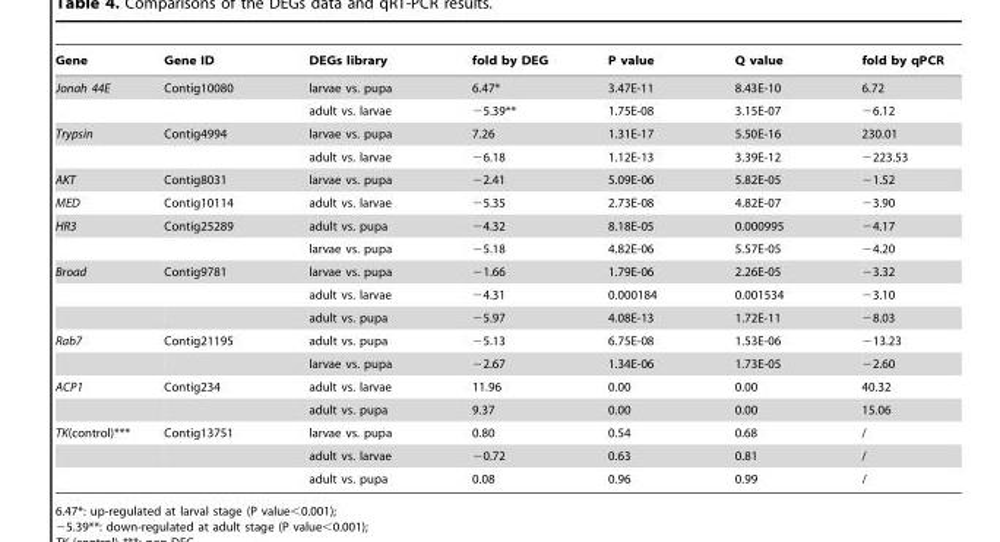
<table><thead><tr><td>Gene</td><td>Gene ID</td><td>DEGs library</td><td>fold by DEG</td><td>P value</td><td>Q value</td><td>fold by qPCR</td></tr></thead><tbody><tr><td rowspan="2">Jonah 44E</td><td>Contig10080</td><td>larvae vs. pupa</td><td>6.47*</td><td>3.47E-11</td><td>8.43E-10</td><td>6.72</td></tr><tr><td></td><td>adult vs. larvae</td><td>−5.39**</td><td>1.75E-08</td><td>3.15E-07</td><td>−6.12</td></tr><tr><td rowspan="2">Trypsin</td><td>Contig4994</td><td>larvae vs. pupa</td><td>7.26</td><td>1.31E-17</td><td>5.50E-16</td><td>230.01</td></tr><tr><td></td><td>adult vs. larvae</td><td>−6.18</td><td>1.12E-13</td><td>3.39E-12</td><td>−223.53</td></tr><tr><td>AKT</td><td>Contig8031</td><td>larvae vs. pupa</td><td>−2.41</td><td>5.09E-06</td><td>5.82E-05</td><td>−1.52</td></tr><tr><td>MED</td><td>Contig10114</td><td>adult vs. larvae</td><td>−5.35</td><td>2.73E-08</td><td>4.82E-07</td><td>−3.90</td></tr><tr><td rowspan="2">HR3</td><td>Contig25289</td><td>adult vs. pupa</td><td>−4.32</td><td>8.18E-05</td><td>0.000995</td><td>−4.17</td></tr><tr><td></td><td>larvae vs. pupa</td><td>−5.18</td><td>4.82E-06</td><td>5.57E-05</td><td>−4.20</td></tr><tr><td rowspan="3">Broad</td><td>Contig9781</td><td>larvae vs. pupa</td><td>−1.66</td><td>1.79E-06</td><td>2.26E-05</td><td>−3.32</td></tr><tr><td></td><td>adult vs. larvae</td><td>−4.31</td><td>0.000184</td><td>0.001534</td><td>−3.10</td></tr><tr><td></td><td>adult vs. pupa</td><td>−5.97</td><td>4.08E-13</td><td>1.72E-11</td><td>−8.03</td></tr><tr><td rowspan="2">Rab7</td><td>Contig21195</td><td>adult vs. pupa</td><td>−5.13</td><td>6.75E-08</td><td>1.53E-06</td><td>−13.23</td></tr><tr><td></td><td>larvae vs. pupa</td><td>−2.67</td><td>1.34E-06</td><td>1.73E-05</td><td>−2.60</td></tr><tr><td rowspan="2">ACP1</td><td>Contig234</td><td>adult vs. larvae</td><td>11.96</td><td>0.00</td><td>0.00</td><td>40.32</td></tr><tr><td></td><td>adult vs. pupa</td><td>9.37</td><td>0.00</td><td>0.00</td><td>15.06</td></tr><tr><td rowspan="3">TK(control)***</td><td>Contig13751</td><td>larvae vs. pupa</td><td>0.80</td><td>0.54</td><td>0.68</td><td>/</td></tr><tr><td></td><td>adult vs. larvae</td><td>−0.72</td><td>0.63</td><td>0.81</td><td>/</td></tr><tr><td></td><td>adult vs. pupa</td><td>0.08</td><td>0.96</td><td>0.99</td><td>/</td></tr></tbody></table>